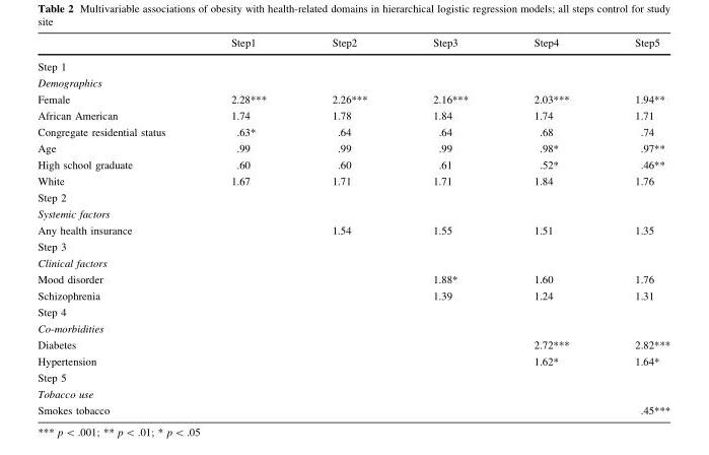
<table><thead><tr><td></td><td>Step1</td><td>Step2</td><td>Step3</td><td>Step4</td><td>Step5</td></tr></thead><tbody><tr><td colspan="6">Step 1</td></tr><tr><td colspan="6">Demographics</td></tr><tr><td>Female</td><td>2.28***</td><td>2.26***</td><td>2.16***</td><td>2.03***</td><td>1.94**</td></tr><tr><td>African American</td><td>1.74</td><td>1.78</td><td>1.84</td><td>1.74</td><td>1.71</td></tr><tr><td>Congregate residential status</td><td>.63*</td><td>.64</td><td>.64</td><td>.68</td><td>.74</td></tr><tr><td>Age</td><td>.99</td><td>.99</td><td>.99</td><td>.98*</td><td>.97**</td></tr><tr><td>High school graduate</td><td>.60</td><td>.60</td><td>.61</td><td>.52*</td><td>.46**</td></tr><tr><td>White</td><td>1.67</td><td>1.71</td><td>1.71</td><td>1.84</td><td>1.76</td></tr><tr><td colspan="6">Step 2</td></tr><tr><td colspan="6">Systemic factors</td></tr><tr><td>Any health insurance</td><td></td><td>1.54</td><td>1.55</td><td>1.51</td><td>1.35</td></tr><tr><td colspan="6">Step 3</td></tr><tr><td colspan="6">Clinical factors</td></tr><tr><td>Mood disorder</td><td></td><td></td><td>1.88*</td><td>1.60</td><td>1.76</td></tr><tr><td>Schizophrenia</td><td></td><td></td><td>1.39</td><td>1.24</td><td>1.31</td></tr><tr><td colspan="6">Step 4</td></tr><tr><td colspan="6">Co-morbidities</td></tr><tr><td>Diabetes</td><td></td><td></td><td></td><td>2.72***</td><td>2.82***</td></tr><tr><td>Hypertension</td><td></td><td></td><td></td><td>1.62*</td><td>1.64*</td></tr><tr><td colspan="6">Step 5</td></tr><tr><td colspan="6">Tobacco use</td></tr><tr><td>Smokes tobacco</td><td></td><td></td><td></td><td></td><td>.45***</td></tr></tbody></table>